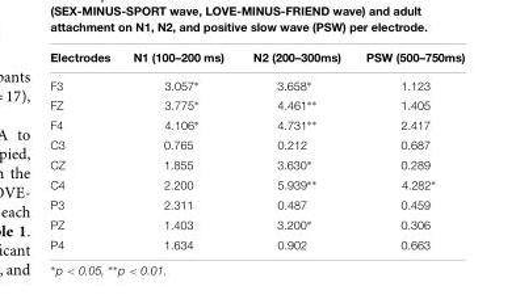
<table><thead><tr><td>Electrodes</td><td>N1 (100–200 ms)</td><td>N2 (200–300ms)</td><td>PSW (500–750ms)</td></tr></thead><tbody><tr><td>F3</td><td>3.057∗</td><td>3.658∗</td><td>1.123</td></tr><tr><td>FZ</td><td>3.775∗</td><td>4.461∗∗</td><td>1.405</td></tr><tr><td>F4</td><td>4.106∗</td><td>4.731∗∗</td><td>2.417</td></tr><tr><td>C3</td><td>0.765</td><td>0.212</td><td>0.687</td></tr><tr><td>CZ</td><td>1.855</td><td>3.630∗</td><td>0.289</td></tr><tr><td>C4</td><td>2.200</td><td>5.939∗∗</td><td>4.282∗</td></tr><tr><td>P3</td><td>2.311</td><td>0.487</td><td>0.459</td></tr><tr><td>PZ</td><td>1.403</td><td>3.200∗</td><td>0.306</td></tr><tr><td>P4</td><td>1.634</td><td>0.902</td><td>0.663</td></tr></tbody></table>